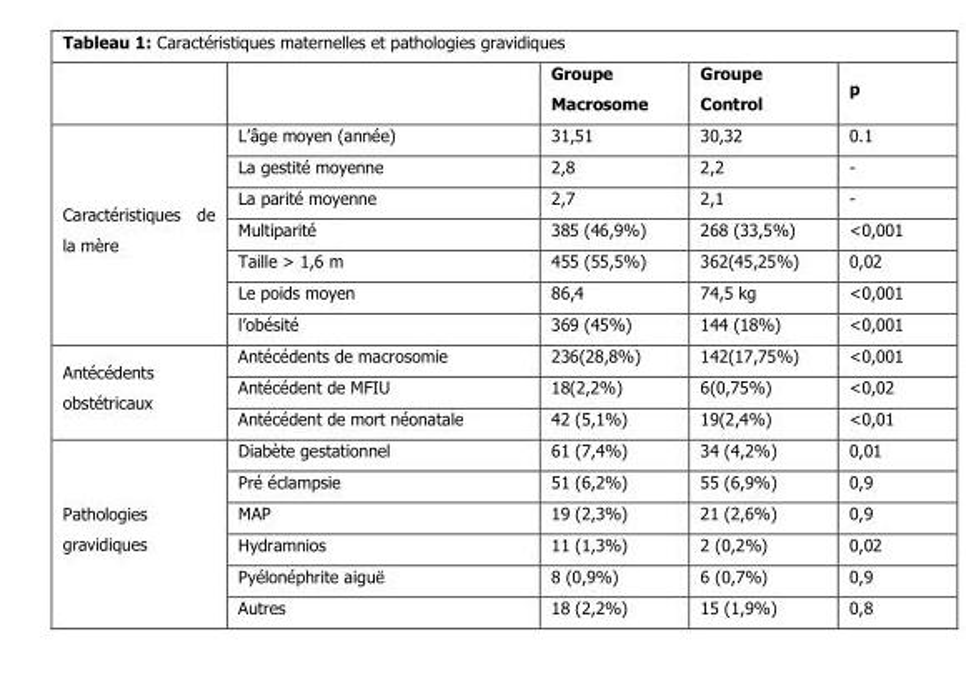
<table><thead><tr><td></td><td></td><td>Groupe Macrosome</td><td>Groupe Control</td><td>p</td></tr></thead><tbody><tr><td rowspan="7">Caractéristiques de la mère</td><td>L’âge moyen (année)</td><td>31,51</td><td>30,32</td><td>0.1</td></tr><tr><td>La gestité moyenne</td><td>2,8</td><td>2,2</td><td>-</td></tr><tr><td>La parité moyenne</td><td>2,7</td><td>2,1</td><td>-</td></tr><tr><td>Multiparité</td><td>385 (46,9%)</td><td>268 (33,5%)</td><td>&lt;0,001</td></tr><tr><td>Taille &gt; 1,6 m</td><td>455 (55,5%)</td><td>362(45,25%)</td><td>0,02</td></tr><tr><td>Le poids moyen</td><td>86,4</td><td>74,5 kg</td><td>&lt;0,001</td></tr><tr><td>l’obésité</td><td>369 (45%)</td><td>144 (18%)</td><td>&lt;0,001</td></tr><tr><td rowspan="3">Antécédents obstétricaux</td><td>Antécédents de macrosomie</td><td>236(28,8%)</td><td>142(17,75%)</td><td>&lt;0,001</td></tr><tr><td>Antécédent de MFIU</td><td>18(2,2%)</td><td>6(0,75%)</td><td>&lt;0,02</td></tr><tr><td>Antécédent de mort néonatale</td><td>42 (5,1%)</td><td>19(2,4%)</td><td>&lt;0,01</td></tr><tr><td rowspan="6">Pathologies gravidiques</td><td>Diabète gestationnel</td><td>61 (7,4%)</td><td>34 (4,2%)</td><td>0,01</td></tr><tr><td>Pré éclampsie</td><td>51 (6,2%)</td><td>55 (6,9%)</td><td>0,9</td></tr><tr><td>MAP</td><td>19 (2,3%)</td><td>21 (2,6%)</td><td>0,9</td></tr><tr><td>Hydramnios</td><td>11 (1,3%)</td><td>2 (0,2%)</td><td>0,02</td></tr><tr><td>Pyélonéphrite aiguë</td><td>8 (0,9%)</td><td>6 (0,7%)</td><td>0,9</td></tr><tr><td>Autres</td><td>18 (2,2%)</td><td>15 (1,9%)</td><td>0,8</td></tr></tbody></table>